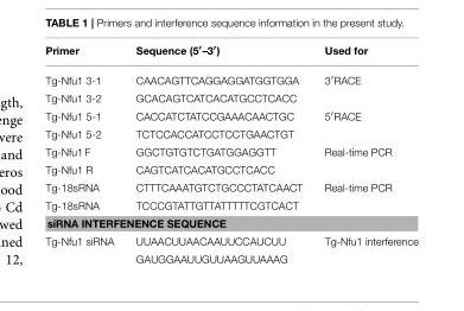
<table><thead><tr><td>Primer</td><td>Sequence (5′–3′)</td><td>Used for</td></tr></thead><tbody><tr><td>Tg-Nfu1 3-1</td><td>CAACAGTTCAGGAGGATGGTGGA</td><td>3′RACE</td></tr><tr><td>Tg-Nfu1 3-2</td><td>GCACAGTCATCACATGCCTCACC</td><td></td></tr><tr><td>Tg-Nfu1 5-1</td><td>CACCATCTATCCGAAACAACTGC</td><td>5′RACE</td></tr><tr><td>Tg-Nfu1 5-2</td><td>TCTCCACCATCCTCCTGAACTGT</td><td></td></tr><tr><td>Tg-Nfu1 F</td><td>GGCTGTGTCTGATGGAGGTT</td><td>Real-time PCR</td></tr><tr><td>Tg-Nfu1 R</td><td>CAGTCATCACATGCCTCACC</td><td></td></tr><tr><td>Tg-18sRNA</td><td>CTTTCAAATGTCTGCCCTATCAACT</td><td>Real-time PCR</td></tr><tr><td>Tg-18sRNA</td><td>TCCCGTATTGTTATTTTTCGTCACT</td><td></td></tr><tr><td colspan="3">siRNA INTERFENENCE SEQUENCE</td></tr><tr><td rowspan="2">Tg-Nfu1 siRNA</td><td>UUAACUUAACAAUUCCAUCUU</td><td>Tg-Nfu1 interference</td></tr><tr><td>GAUGGAAUUGUUAAGUUAAAG</td><td></td></tr></tbody></table>